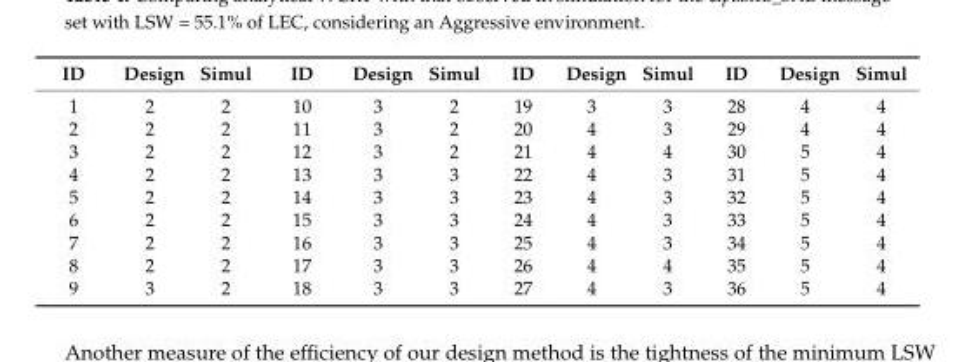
<table><thead><tr><td>ID</td><td>Design</td><td>Simul</td><td>ID</td><td>Design</td><td>Simul</td><td>ID</td><td>Design</td><td>Simul</td><td>ID</td><td>Design</td><td>Simul</td></tr></thead><tbody><tr><td>1</td><td>2</td><td>2</td><td>10</td><td>3</td><td>2</td><td>19</td><td>3</td><td>3</td><td>28</td><td>4</td><td>4</td></tr><tr><td>2</td><td>2</td><td>2</td><td>11</td><td>3</td><td>2</td><td>20</td><td>4</td><td>3</td><td>29</td><td>4</td><td>4</td></tr><tr><td>3</td><td>2</td><td>2</td><td>12</td><td>3</td><td>2</td><td>21</td><td>4</td><td>4</td><td>30</td><td>5</td><td>4</td></tr><tr><td>4</td><td>2</td><td>2</td><td>13</td><td>3</td><td>3</td><td>22</td><td>4</td><td>3</td><td>31</td><td>5</td><td>4</td></tr><tr><td>5</td><td>2</td><td>2</td><td>14</td><td>3</td><td>3</td><td>23</td><td>4</td><td>3</td><td>32</td><td>5</td><td>4</td></tr><tr><td>6</td><td>2</td><td>2</td><td>15</td><td>3</td><td>3</td><td>24</td><td>4</td><td>3</td><td>33</td><td>5</td><td>4</td></tr><tr><td>7</td><td>2</td><td>2</td><td>16</td><td>3</td><td>3</td><td>25</td><td>4</td><td>3</td><td>34</td><td>5</td><td>4</td></tr><tr><td>8</td><td>2</td><td>2</td><td>17</td><td>3</td><td>3</td><td>26</td><td>4</td><td>4</td><td>35</td><td>5</td><td>4</td></tr><tr><td>9</td><td>3</td><td>2</td><td>18</td><td>3</td><td>3</td><td>27</td><td>4</td><td>3</td><td>36</td><td>5</td><td>4</td></tr></tbody></table>